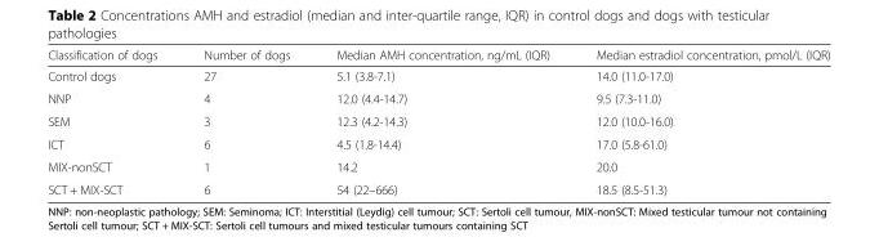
<table><thead><tr><td>Classification of dogs</td><td>Number of dogs</td><td>Median AMH concentration, ng/mL (IQR)</td><td>Median estradiol concentration, pmol/L (IQR)</td></tr></thead><tbody><tr><td>Control dogs</td><td>27</td><td>5.1 (3.8-7.1)</td><td>14.0 (11.0-17.0)</td></tr><tr><td>NNP</td><td>4</td><td>12.0 (4.4-14.7)</td><td>9.5 (7.3-11.0)</td></tr><tr><td>SEM</td><td>3</td><td>12.3 (4.2-14.3)</td><td>12.0 (10.0-16.0)</td></tr><tr><td>ICT</td><td>6</td><td>4.5 (1.8-14.4)</td><td>17.0 (5.8-61.0)</td></tr><tr><td>MIX-nonSCT</td><td>1</td><td>14.2</td><td>20.0</td></tr><tr><td>SCT + MIX-SCT</td><td>6</td><td>54 (22–666)</td><td>18.5 (8.5-51.3)</td></tr></tbody></table>